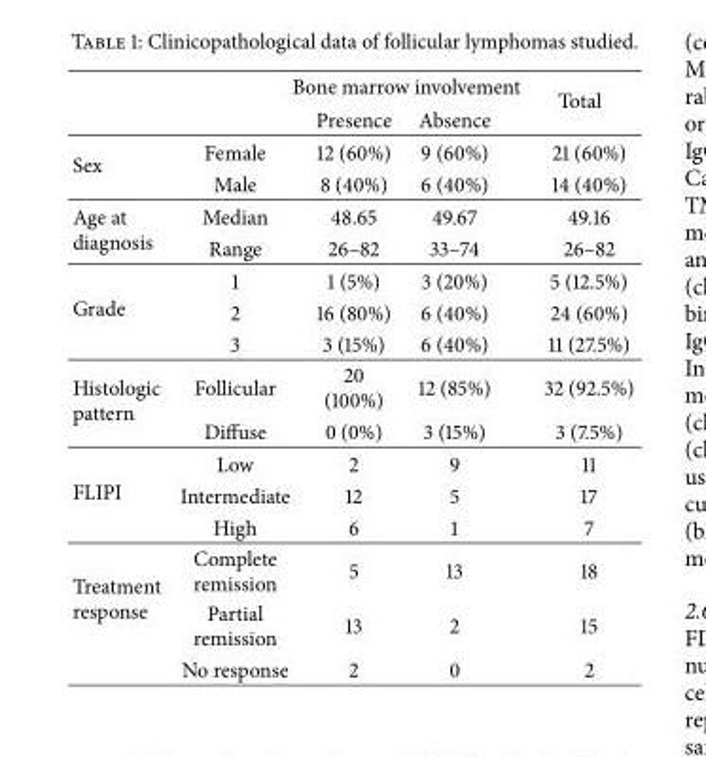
<table><thead><tr><td rowspan="2"></td><td rowspan="2"></td><td colspan="2">Bone marrow involvement</td><td rowspan="2">Total</td></tr><tr><td>Presence</td><td>Absence</td></tr></thead><tbody><tr><td rowspan="2">Sex</td><td>Female</td><td>12 (60%)</td><td>9 (60%)</td><td>21 (60%)</td></tr><tr><td>Male</td><td>8 (40%)</td><td>6 (40%)</td><td>14 (40%)</td></tr><tr><td rowspan="2">Age at diagnosis</td><td>Median</td><td>48.65</td><td>49.67</td><td>49.16</td></tr><tr><td>Range</td><td>26–82</td><td>33–74</td><td>26–82</td></tr><tr><td rowspan="3">Grade</td><td>1</td><td>1 (5%)</td><td>3 (20%)</td><td>5 (12.5%)</td></tr><tr><td>2</td><td>16 (80%)</td><td>6 (40%)</td><td>24 (60%)</td></tr><tr><td>3</td><td>3 (15%)</td><td>6 (40%)</td><td>11 (27.5%)</td></tr><tr><td rowspan="2">Histologic pattern</td><td>Follicular</td><td>20 (100%)</td><td>12 (85%)</td><td>32 (92.5%)</td></tr><tr><td>Diffuse</td><td>0 (0%)</td><td>3 (15%)</td><td>3 (7.5%)</td></tr><tr><td rowspan="3">FLIPI</td><td>Low</td><td>2</td><td>9</td><td>11</td></tr><tr><td>Intermediate</td><td>12</td><td>5</td><td>17</td></tr><tr><td>High</td><td>6</td><td>1</td><td>7</td></tr><tr><td rowspan="3">Treatment response</td><td>Complete remission</td><td>5</td><td>13</td><td>18</td></tr><tr><td>Partial remission</td><td>13</td><td>2</td><td>15</td></tr><tr><td>No response</td><td>2</td><td>0</td><td>2</td></tr></tbody></table>